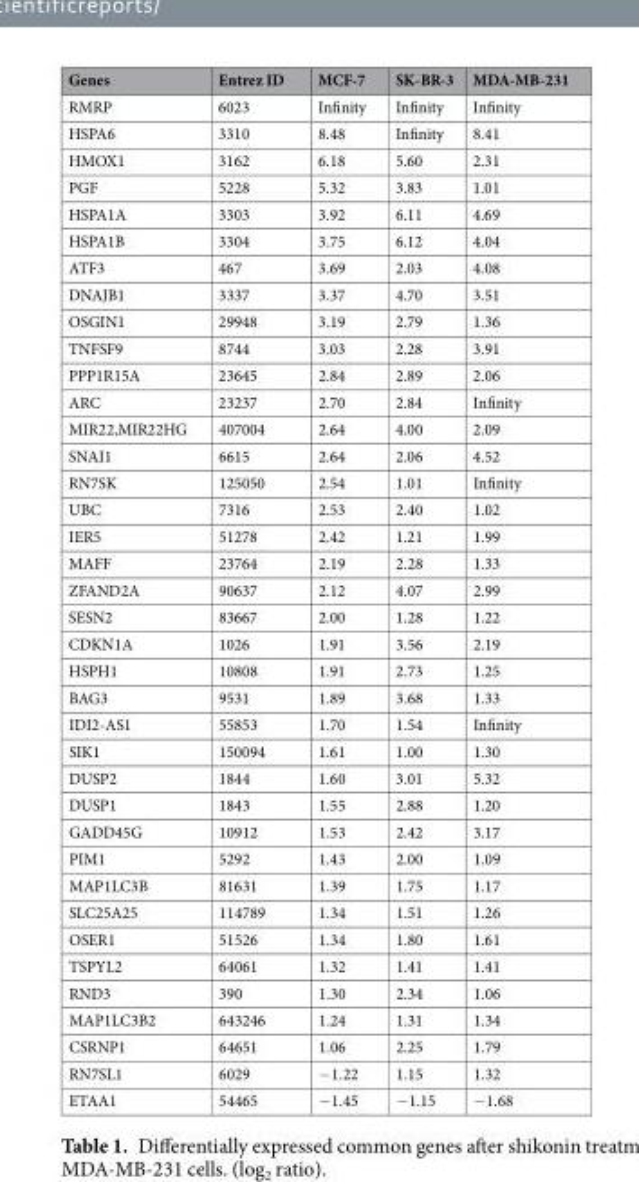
<table><thead><tr><td>Genes</td><td>Entrez ID</td><td>MCF-7</td><td>SK-BR-3</td><td>MDA-MB-231</td></tr></thead><tbody><tr><td>RMRP</td><td>6023</td><td>Infinity</td><td>Infinity</td><td>Infinity</td></tr><tr><td>HSPA6</td><td>3310</td><td>8.48</td><td>Infinity</td><td>8.41</td></tr><tr><td>HMOX1</td><td>3162</td><td>6.18</td><td>5.60</td><td>2.31</td></tr><tr><td>PGF</td><td>5228</td><td>5.32</td><td>3.83</td><td>1.01</td></tr><tr><td>HSPA1A</td><td>3303</td><td>3.92</td><td>6.11</td><td>4.69</td></tr><tr><td>HSPA1B</td><td>3304</td><td>3.75</td><td>6.12</td><td>4.04</td></tr><tr><td>ATF3</td><td>467</td><td>3.69</td><td>2.03</td><td>4.08</td></tr><tr><td>DNAJB1</td><td>3337</td><td>3.37</td><td>4.70</td><td>3.51</td></tr><tr><td>OSGIN1</td><td>29948</td><td>3.19</td><td>2.79</td><td>1.36</td></tr><tr><td>TNFSF9</td><td>8744</td><td>3.03</td><td>2.28</td><td>3.91</td></tr><tr><td>PPP1R15A</td><td>23645</td><td>2.84</td><td>2.89</td><td>2.06</td></tr><tr><td>ARC</td><td>23237</td><td>2.70</td><td>2.84</td><td>Infinity</td></tr><tr><td>MIR22,MIR22HG</td><td>407004</td><td>2.64</td><td>4.00</td><td>2.09</td></tr><tr><td>SNAI1</td><td>6615</td><td>2.64</td><td>2.06</td><td>4.52</td></tr><tr><td>RN7SK</td><td>125050</td><td>2.54</td><td>1.01</td><td>Infinity</td></tr><tr><td>UBC</td><td>7316</td><td>2.53</td><td>2.40</td><td>1.02</td></tr><tr><td>IER5</td><td>51278</td><td>2.42</td><td>1.21</td><td>1.99</td></tr><tr><td>MAFF</td><td>23764</td><td>2.19</td><td>2.28</td><td>1.33</td></tr><tr><td>ZFAND2A</td><td>90637</td><td>2.12</td><td>4.07</td><td>2.99</td></tr><tr><td>SESN2</td><td>83667</td><td>2.00</td><td>1.28</td><td>1.22</td></tr><tr><td>CDKN1A</td><td>1026</td><td>1.91</td><td>3.56</td><td>2.19</td></tr><tr><td>HSPH1</td><td>10808</td><td>1.91</td><td>2.73</td><td>1.25</td></tr><tr><td>BAG3</td><td>9531</td><td>1.89</td><td>3.68</td><td>1.33</td></tr><tr><td>IDI2-AS1</td><td>55853</td><td>1.70</td><td>1.54</td><td>Infinity</td></tr><tr><td>SIK1</td><td>150094</td><td>1.61</td><td>1.00</td><td>1.30</td></tr><tr><td>DUSP2</td><td>1844</td><td>1.60</td><td>3.01</td><td>5.32</td></tr><tr><td>DUSP1</td><td>1843</td><td>1.55</td><td>2.88</td><td>1.20</td></tr><tr><td>GADD45G</td><td>10912</td><td>1.53</td><td>2.42</td><td>3.17</td></tr><tr><td>PIM1</td><td>5292</td><td>1.43</td><td>2.00</td><td>1.09</td></tr><tr><td>MAP1LC3B</td><td>81631</td><td>1.39</td><td>1.75</td><td>1.17</td></tr><tr><td>SLC25A25</td><td>114789</td><td>1.34</td><td>1.51</td><td>1.26</td></tr><tr><td>OSER1</td><td>51526</td><td>1.34</td><td>1.80</td><td>1.61</td></tr><tr><td>TSPYL2</td><td>64061</td><td>1.32</td><td>1.41</td><td>1.41</td></tr><tr><td>RND3</td><td>390</td><td>1.30</td><td>2.34</td><td>1.06</td></tr><tr><td>MAP1LC3B2</td><td>643246</td><td>1.24</td><td>1.31</td><td>1.34</td></tr><tr><td>CSRNP1</td><td>64651</td><td>1.06</td><td>2.25</td><td>1.79</td></tr><tr><td>RN7SL1</td><td>6029</td><td>−1.22</td><td>1.15</td><td>1.32</td></tr><tr><td>ETAA1</td><td>54465</td><td>−1.45</td><td>−1.15</td><td>−1.68</td></tr></tbody></table>